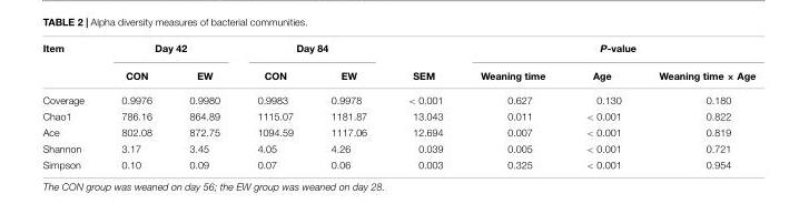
<table><thead><tr><td rowspan="2">Item</td><td colspan="2">Day 42</td><td colspan="2">Day 84</td><td rowspan="2">SEM</td><td colspan="3">P-value</td></tr><tr><td>CON</td><td>EW</td><td>CON</td><td>EW</td><td>Weaning time</td><td>Age</td><td>Weaning time × Age</td></tr></thead><tbody><tr><td>Coverage</td><td>0.9976</td><td>0.9980</td><td>0.9983</td><td>0.9978</td><td>&lt; 0.001</td><td>0.627</td><td>0.130</td><td>0.180</td></tr><tr><td>Chao1</td><td>786.16</td><td>864.89</td><td>1115.07</td><td>1181.87</td><td>13.043</td><td>0.011</td><td>&lt; 0.001</td><td>0.822</td></tr><tr><td>Ace</td><td>802.08</td><td>872.75</td><td>1094.59</td><td>1117.06</td><td>12.694</td><td>0.007</td><td>&lt; 0.001</td><td>0.819</td></tr><tr><td>Shannon</td><td>3.17</td><td>3.45</td><td>4.05</td><td>4.26</td><td>0.039</td><td>0.005</td><td>&lt; 0.001</td><td>0.721</td></tr><tr><td>Simpson</td><td>0.10</td><td>0.09</td><td>0.07</td><td>0.06</td><td>0.003</td><td>0.325</td><td>&lt; 0.001</td><td>0.954</td></tr></tbody></table>